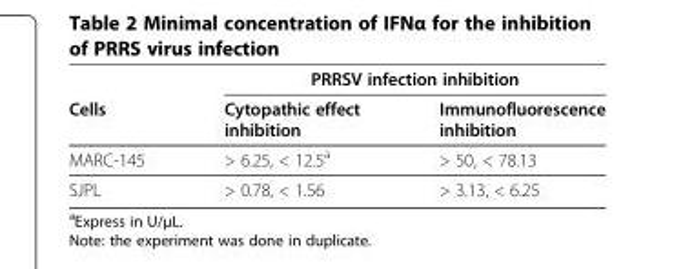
<table><thead><tr><td rowspan="2">Cells</td><td colspan="2">PRRSV infection inhibition</td></tr><tr><td>Cytopathic effect inhibition</td><td>Immunofluorescence inhibition</td></tr></thead><tbody><tr><td>MARC-145</td><td>&gt; 6.25, &lt; 12.5<sup>a</sup></td><td>&gt; 50, &lt; 78.13</td></tr><tr><td>SJPL</td><td>&gt; 0.78, &lt; 1.56</td><td>&gt; 3.13, &lt; 6.25</td></tr></tbody></table>